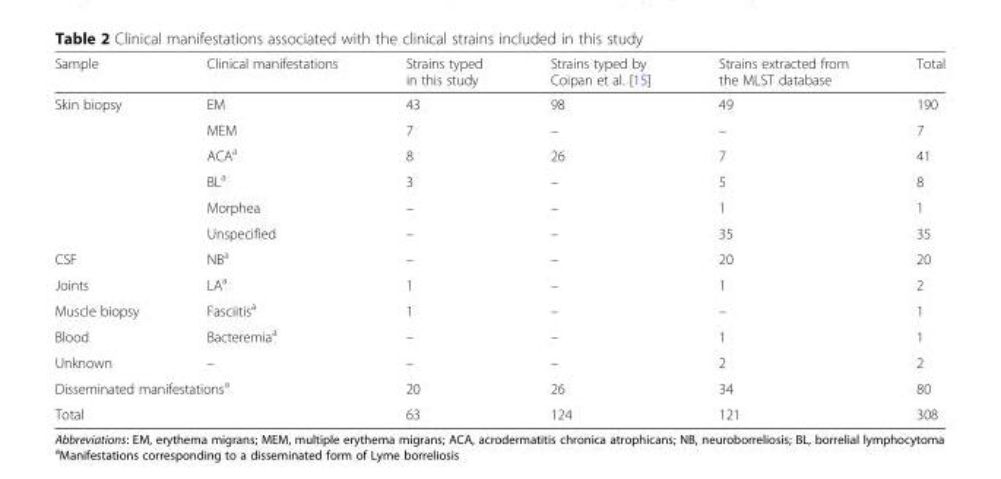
<table><thead><tr><td>Sample</td><td>Clinical manifestations</td><td>Strains typed in this study</td><td>Strains typed by Coipan et al. [15]</td><td>Strains extracted from the MLST database</td><td>Total</td></tr></thead><tbody><tr><td rowspan="6">Skin biopsy</td><td>EM</td><td>43</td><td>98</td><td>49</td><td>190</td></tr><tr><td>MEM</td><td>7</td><td>–</td><td>–</td><td>7</td></tr><tr><td>ACA<sup>a</sup></td><td>8</td><td>26</td><td>7</td><td>41</td></tr><tr><td>BL<sup>a</sup></td><td>3</td><td>–</td><td>5</td><td>8</td></tr><tr><td>Morphea</td><td>–</td><td>–</td><td>1</td><td>1</td></tr><tr><td>Unspecified</td><td>–</td><td>–</td><td>35</td><td>35</td></tr><tr><td>CSF</td><td>NB<sup>a</sup></td><td>–</td><td>–</td><td>20</td><td>20</td></tr><tr><td>Joints</td><td>LA<sup>a</sup></td><td>1</td><td>–</td><td>1</td><td>2</td></tr><tr><td>Muscle biopsy</td><td>Fasciitis<sup>a</sup></td><td>1</td><td>–</td><td>–</td><td>1</td></tr><tr><td>Blood</td><td>Bacteremia<sup>a</sup></td><td>–</td><td>–</td><td>1</td><td>1</td></tr><tr><td>Unknown</td><td>–</td><td>–</td><td>–</td><td>2</td><td>2</td></tr><tr><td colspan="2">Disseminated manifestations<sup>a</sup></td><td>20</td><td>26</td><td>34</td><td>80</td></tr><tr><td colspan="2">Total</td><td>63</td><td>124</td><td>121</td><td>308</td></tr></tbody></table>